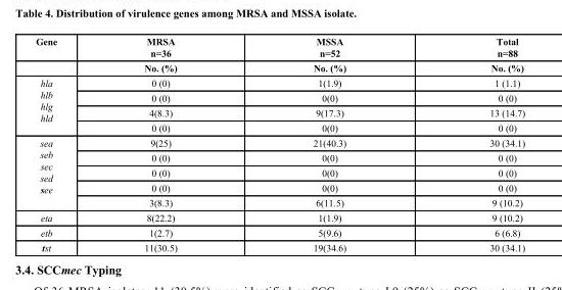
<table><thead><tr><td rowspan="2">Gene</td><td rowspan="2">MRSA n=36 No. (%)</td><td rowspan="2">MSSA n=52 No. (%)</td><td rowspan="2">Total n=88 No. (%)</td></tr><tr></tr></thead><tbody><tr><td rowspan="4">hla hlb hlg hld</td><td>0 (0)</td><td>1(1.9)</td><td>1 (1.1)</td></tr><tr><td>0 (0)</td><td>0(0)</td><td>0 (0)</td></tr><tr><td>4(8.3)</td><td>9(17.3)</td><td>13 (14.7)</td></tr><tr><td>0 (0)</td><td>0(0)</td><td>0 (0)</td></tr><tr><td rowspan="5">sea seb sec sed see</td><td>9(25)</td><td>21(40.3)</td><td>30 (34.1)</td></tr><tr><td>0 (0)</td><td>0(0)</td><td>0 (0)</td></tr><tr><td>0 (0)</td><td>0(0)</td><td>0 (0)</td></tr><tr><td>0 (0)</td><td>0(0)</td><td>0 (0)</td></tr><tr><td>3(8.3)</td><td>6(11.5)</td><td>9 (10.2)</td></tr><tr><td>eta</td><td>8(22.2)</td><td>1(1.9)</td><td>9 (10.2)</td></tr><tr><td>etb</td><td>1(2.7)</td><td>5(9.6)</td><td>6 (6.8)</td></tr><tr><td>tst</td><td>11(30.5)</td><td>19(34.6)</td><td>30 (34.1)</td></tr></tbody></table>